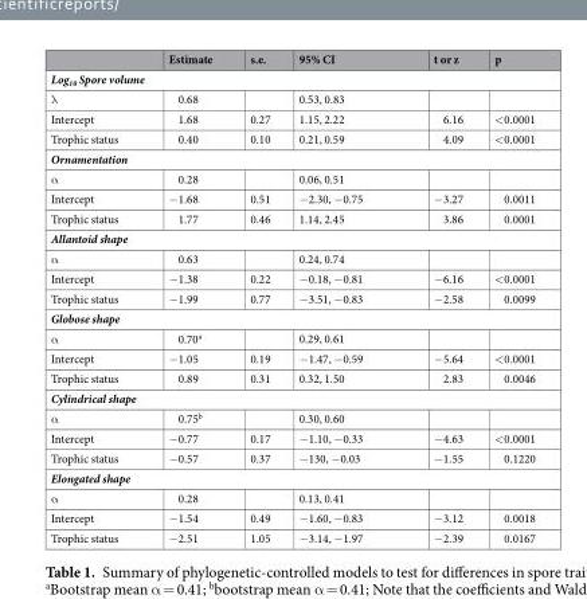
<table><thead><tr><td></td><td>Estimate</td><td>s.e.</td><td>95% CI</td><td>t or z</td><td>p</td></tr></thead><tbody><tr><td colspan="6">Log<sub>10</sub> Spore volume</td></tr><tr><td>λ</td><td>0.68</td><td></td><td>0.53, 0.83</td><td></td><td></td></tr><tr><td>Intercept</td><td>1.68</td><td>0.27</td><td>1.15, 2.22</td><td>6.16</td><td>&lt;0.0001</td></tr><tr><td>Trophic status</td><td>0.40</td><td>0.10</td><td>0.21, 0.59</td><td>4.09</td><td>&lt;0.0001</td></tr><tr><td colspan="6">Ornamentation</td></tr><tr><td>α</td><td>0.28</td><td></td><td>0.06, 0.51</td><td></td><td></td></tr><tr><td>Intercept</td><td>−1.68</td><td>0.51</td><td>−2.30, −0.75</td><td>−3.27</td><td>0.0011</td></tr><tr><td>Trophic status</td><td>1.77</td><td>0.46</td><td>1.14, 2.45</td><td>3.86</td><td>0.0001</td></tr><tr><td colspan="6">Allantoid shape</td></tr><tr><td>α</td><td>0.63</td><td></td><td>0.24, 0.74</td><td></td><td></td></tr><tr><td>Intercept</td><td>−1.38</td><td>0.22</td><td>−0.18, −0.81</td><td>−6.16</td><td>&lt;0.0001</td></tr><tr><td>Trophic status</td><td>−1.99</td><td>0.77</td><td>−3.51, −0.83</td><td>−2.58</td><td>0.0099</td></tr><tr><td colspan="6">Globose shape</td></tr><tr><td>α</td><td>0.70<sup>a</sup></td><td></td><td>0.29, 0.61</td><td></td><td></td></tr><tr><td>Intercept</td><td>−1.05</td><td>0.19</td><td>−1.47, −0.59</td><td>−5.64</td><td>&lt;0.0001</td></tr><tr><td>Trophic status</td><td>0.89</td><td>0.31</td><td>0.32, 1.50</td><td>2.83</td><td>0.0046</td></tr><tr><td colspan="6">Cylindrical shape</td></tr><tr><td>α</td><td>0.75<sup>b</sup></td><td></td><td>0.30, 0.60</td><td></td><td></td></tr><tr><td>Intercept</td><td>−0.77</td><td>0.17</td><td>−1.10, −0.33</td><td>−4.63</td><td>&lt;0.0001</td></tr><tr><td>Trophic status</td><td>−0.57</td><td>0.37</td><td>−130, −0.03</td><td>−1.55</td><td>0.1220</td></tr><tr><td colspan="6">Elongated shape</td></tr><tr><td>α</td><td>0.28</td><td></td><td>0.13, 0.41</td><td></td><td></td></tr><tr><td>Intercept</td><td>−1.54</td><td>0.49</td><td>−1.60, −0.83</td><td>−3.12</td><td>0.0018</td></tr><tr><td>Trophic status</td><td>−2.51</td><td>1.05</td><td>−3.14, −1.97</td><td>−2.39</td><td>0.0167</td></tr></tbody></table>